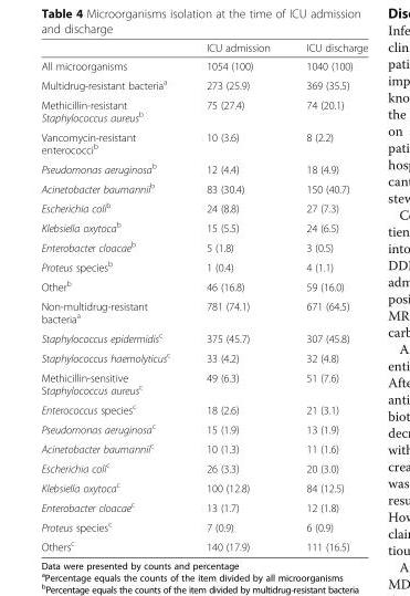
<table><thead><tr><td></td><td>ICU admission</td><td>ICU discharge</td></tr></thead><tbody><tr><td>All microorganisms</td><td>1054 (100)</td><td>1040 (100)</td></tr><tr><td>Multidrug-resistant bacteria<sup>a</sup></td><td>273 (25.9)</td><td>369 (35.5)</td></tr><tr><td>Methicillin-resistant Staphylococcus aureus<sup>b</sup></td><td>75 (27.4)</td><td>74 (20.1)</td></tr><tr><td>Vancomycin-resistant enterococci<sup>b</sup></td><td>10 (3.6)</td><td>8 (2.2)</td></tr><tr><td>Pseudomonas aeruginosa<sup>b</sup></td><td>12 (4.4)</td><td>18 (4.9)</td></tr><tr><td>Acinetobacter baumannii<sup>b</sup></td><td>83 (30.4)</td><td>150 (40.7)</td></tr><tr><td>Escherichia coli<sup>b</sup></td><td>24 (8.8)</td><td>27 (7.3)</td></tr><tr><td>Klebsiella oxytoca<sup>b</sup></td><td>15 (5.5)</td><td>24 (6.5)</td></tr><tr><td>Enterobacter cloacae<sup>b</sup></td><td>5 (1.8)</td><td>3 (0.5)</td></tr><tr><td>Proteus species<sup>b</sup></td><td>1 (0.4)</td><td>4 (1.1)</td></tr><tr><td>Other<sup>b</sup></td><td>46 (16.8)</td><td>59 (16.0)</td></tr><tr><td>Non-multidrug-resistant bacteria<sup>a</sup></td><td>781 (74.1)</td><td>671 (64.5)</td></tr><tr><td>Staphylococcus epidermidis<sup>c</sup></td><td>375 (45.7)</td><td>307 (45.8)</td></tr><tr><td>Staphylococcus haemolyticus<sup>c</sup></td><td>33 (4.2)</td><td>32 (4.8)</td></tr><tr><td>Methicillin-sensitive Staphylococcus aureus<sup>c</sup></td><td>49 (6.3)</td><td>51 (7.6)</td></tr><tr><td>Enterococcus species<sup>c</sup></td><td>18 (2.6)</td><td>21 (3.1)</td></tr><tr><td>Pseudomonas aeruginosa<sup>c</sup></td><td>15 (1.9)</td><td>13 (1.9)</td></tr><tr><td>Acinetobacter baumannii<sup>c</sup></td><td>10 (1.3)</td><td>11 (1.6)</td></tr><tr><td>Escherichia coli<sup>c</sup></td><td>26 (3.3)</td><td>20 (3.0)</td></tr><tr><td>Klebsiella oxytoca<sup>c</sup></td><td>100 (12.8)</td><td>84 (12.5)</td></tr><tr><td>Enterobacter cloacae<sup>c</sup></td><td>13 (1.7)</td><td>12 (1.8)</td></tr><tr><td>Proteus species<sup>c</sup></td><td>7 (0.9)</td><td>6 (0.9)</td></tr><tr><td>Others<sup>c</sup></td><td>140 (17.9)</td><td>111 (16.5)</td></tr></tbody></table>